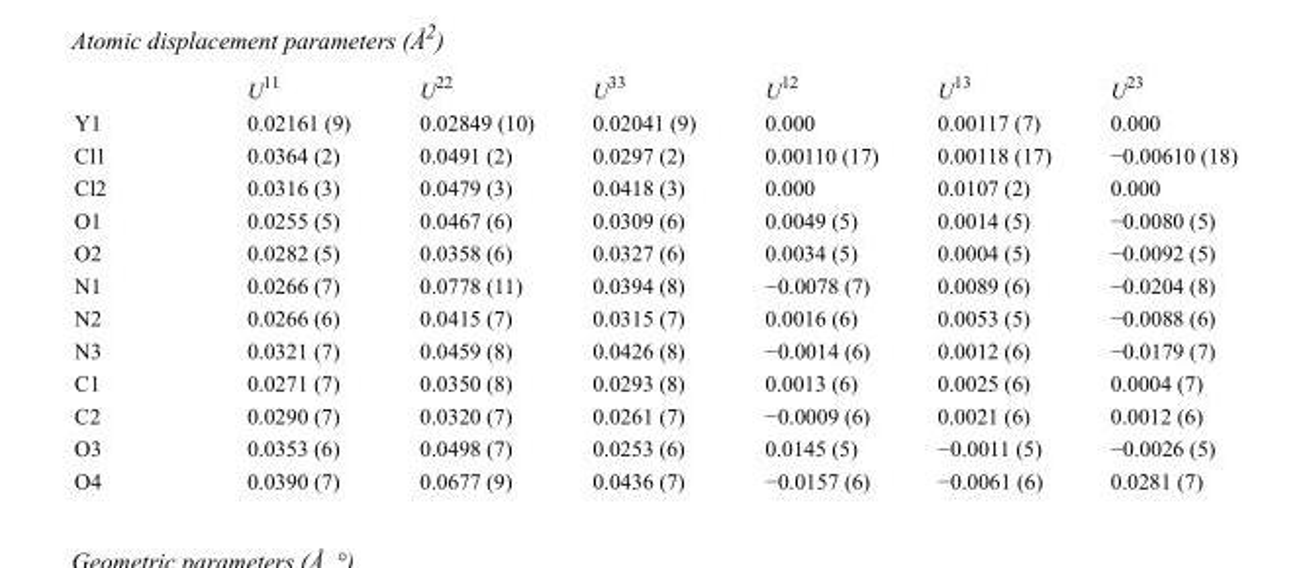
<table><thead><tr><td></td><td>U<sup>11</sup></td><td>U<sup>22</sup></td><td>U<sup>33</sup></td><td>U<sup>12</sup></td><td>U<sup>13</sup></td><td>U<sup>23</sup></td></tr></thead><tbody><tr><td>Y1</td><td>0.02161 (9)</td><td>0.02849 (10)</td><td>0.02041 (9)</td><td>0.000</td><td>0.00117 (7)</td><td>0.000</td></tr><tr><td>Cl1</td><td>0.0364 (2)</td><td>0.0491 (2)</td><td>0.0297 (2)</td><td>0.00110 (17)</td><td>0.00118 (17)</td><td>−0.00610 (18)</td></tr><tr><td>Cl2</td><td>0.0316 (3)</td><td>0.0479 (3)</td><td>0.0418 (3)</td><td>0.000</td><td>0.0107 (2)</td><td>0.000</td></tr><tr><td>O1</td><td>0.0255 (5)</td><td>0.0467 (6)</td><td>0.0309 (6)</td><td>0.0049 (5)</td><td>0.0014 (5)</td><td>−0.0080 (5)</td></tr><tr><td>O2</td><td>0.0282 (5)</td><td>0.0358 (6)</td><td>0.0327 (6)</td><td>0.0034 (5)</td><td>0.0004 (5)</td><td>−0.0092 (5)</td></tr><tr><td>N1</td><td>0.0266 (7)</td><td>0.0778 (11)</td><td>0.0394 (8)</td><td>−0.0078 (7)</td><td>0.0089 (6)</td><td>−0.0204 (8)</td></tr><tr><td>N2</td><td>0.0266 (6)</td><td>0.0415 (7)</td><td>0.0315 (7)</td><td>0.0016 (6)</td><td>0.0053 (5)</td><td>−0.0088 (6)</td></tr><tr><td>N3</td><td>0.0321 (7)</td><td>0.0459 (8)</td><td>0.0426 (8)</td><td>−0.0014 (6)</td><td>0.0012 (6)</td><td>−0.0179 (7)</td></tr><tr><td>C1</td><td>0.0271 (7)</td><td>0.0350 (8)</td><td>0.0293 (8)</td><td>0.0013 (6)</td><td>0.0025 (6)</td><td>0.0004 (7)</td></tr><tr><td>C2</td><td>0.0290 (7)</td><td>0.0320 (7)</td><td>0.0261 (7)</td><td>−0.0009 (6)</td><td>0.0021 (6)</td><td>0.0012 (6)</td></tr><tr><td>O3</td><td>0.0353 (6)</td><td>0.0498 (7)</td><td>0.0253 (6)</td><td>0.0145 (5)</td><td>−0.0011 (5)</td><td>−0.0026 (5)</td></tr><tr><td>O4</td><td>0.0390 (7)</td><td>0.0677 (9)</td><td>0.0436 (7)</td><td>−0.0157 (6)</td><td>−0.0061 (6)</td><td>0.0281 (7)</td></tr></tbody></table>